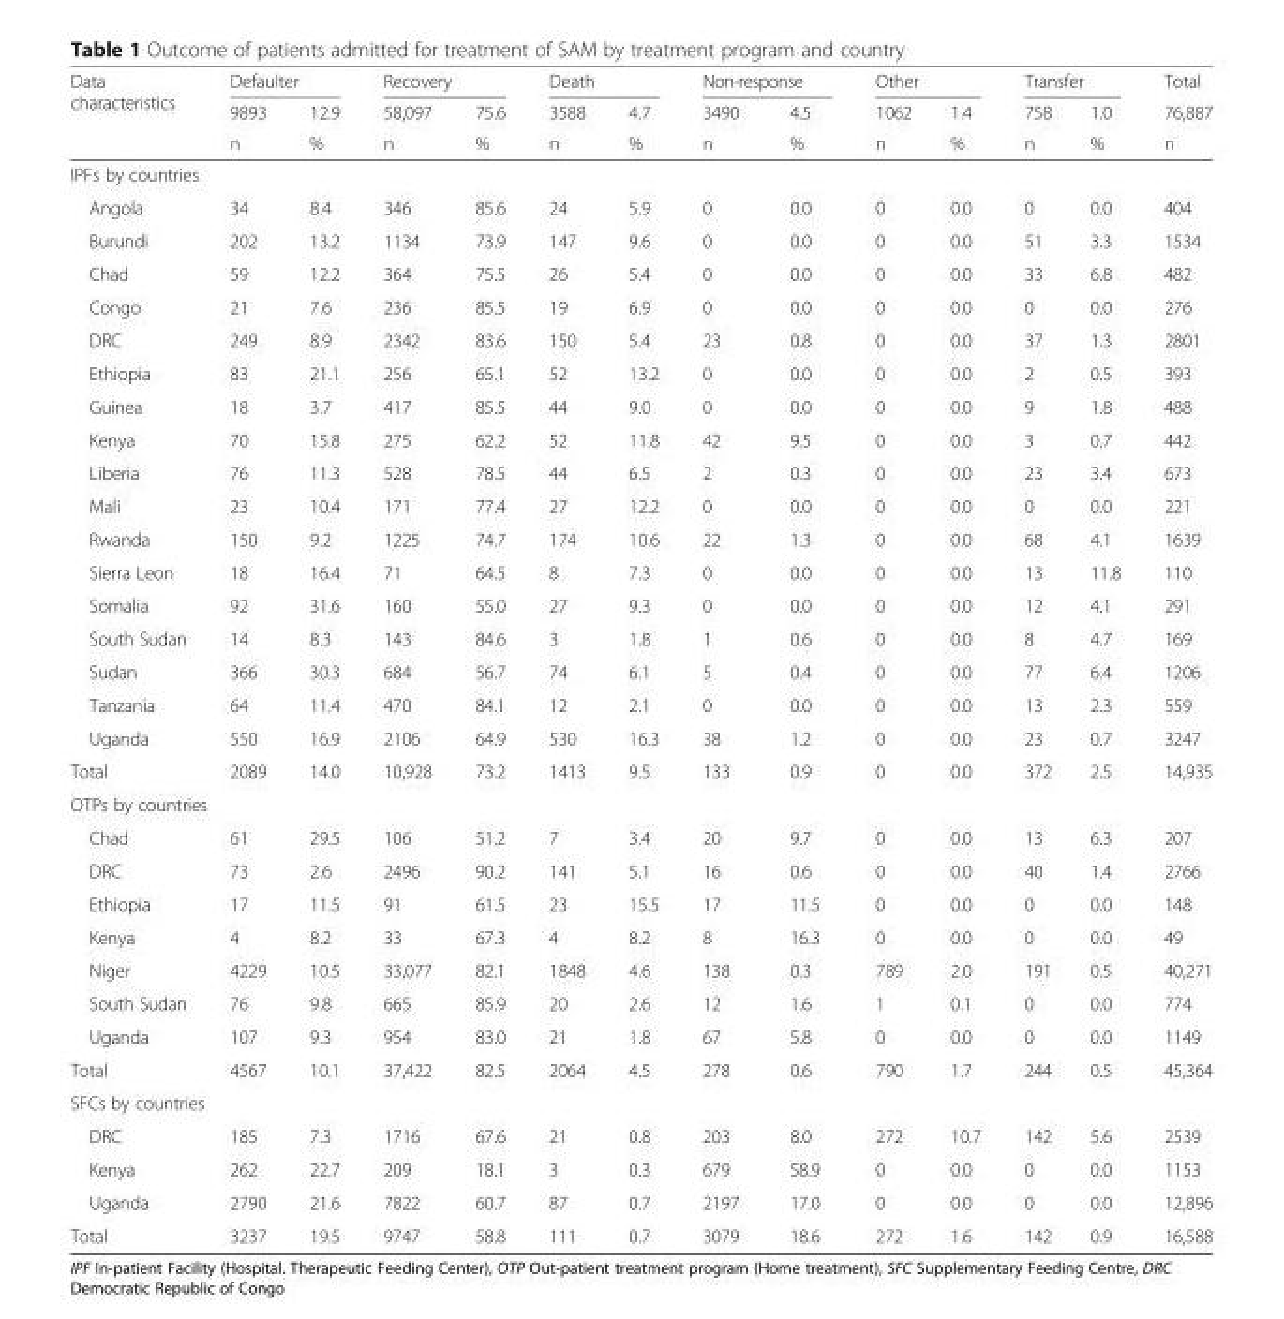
<table><thead><tr><td rowspan="3">Data characteristics</td><td colspan="2">Defaulter</td><td colspan="2">Recovery</td><td colspan="2">Death</td><td colspan="2">Non-response</td><td colspan="2">Other</td><td colspan="2">Transfer</td><td rowspan="3">Total 76,887 n</td></tr><tr><td rowspan="2">9893 n</td><td rowspan="2">12.9 %</td><td rowspan="2">58,097 n</td><td rowspan="2">75.6 %</td><td rowspan="2">3588 n</td><td rowspan="2">4.7 %</td><td rowspan="2">3490 n</td><td rowspan="2">4.5 %</td><td rowspan="2">1062 n</td><td rowspan="2">1.4 %</td><td rowspan="2">758 n</td><td rowspan="2">1.0 %</td></tr><tr></tr></thead><tbody><tr><td colspan="14">IPFs by countries</td></tr><tr><td>Angola</td><td>34</td><td>8.4</td><td>346</td><td>85.6</td><td>24</td><td>5.9</td><td>0</td><td>0.0</td><td>0</td><td>0.0</td><td>0</td><td>0.0</td><td>404</td></tr><tr><td>Burundi</td><td>202</td><td>13.2</td><td>1134</td><td>73.9</td><td>147</td><td>9.6</td><td>0</td><td>0.0</td><td>0</td><td>0.0</td><td>51</td><td>3.3</td><td>1534</td></tr><tr><td>Chad</td><td>59</td><td>12.2</td><td>364</td><td>75.5</td><td>26</td><td>5.4</td><td>0</td><td>0.0</td><td>0</td><td>0.0</td><td>33</td><td>6.8</td><td>482</td></tr><tr><td>Congo</td><td>21</td><td>7.6</td><td>236</td><td>85.5</td><td>19</td><td>6.9</td><td>0</td><td>0.0</td><td>0</td><td>0.0</td><td>0</td><td>0.0</td><td>276</td></tr><tr><td>DRC</td><td>249</td><td>8.9</td><td>2342</td><td>83.6</td><td>150</td><td>5.4</td><td>23</td><td>0.8</td><td>0</td><td>0.0</td><td>37</td><td>1.3</td><td>2801</td></tr><tr><td>Ethiopia</td><td>83</td><td>21.1</td><td>256</td><td>65.1</td><td>52</td><td>13.2</td><td>0</td><td>0.0</td><td>0</td><td>0.0</td><td>2</td><td>0.5</td><td>393</td></tr><tr><td>Guinea</td><td>18</td><td>3.7</td><td>417</td><td>85.5</td><td>44</td><td>9.0</td><td>0</td><td>0.0</td><td>0</td><td>0.0</td><td>9</td><td>1.8</td><td>488</td></tr><tr><td>Kenya</td><td>70</td><td>15.8</td><td>275</td><td>62.2</td><td>52</td><td>11.8</td><td>42</td><td>9.5</td><td>0</td><td>0.0</td><td>3</td><td>0.7</td><td>442</td></tr><tr><td>Liberia</td><td>76</td><td>11.3</td><td>528</td><td>78.5</td><td>44</td><td>6.5</td><td>2</td><td>0.3</td><td>0</td><td>0.0</td><td>23</td><td>3.4</td><td>673</td></tr><tr><td>Mali</td><td>23</td><td>10.4</td><td>171</td><td>77.4</td><td>27</td><td>12.2</td><td>0</td><td>0.0</td><td>0</td><td>0.0</td><td>0</td><td>0.0</td><td>221</td></tr><tr><td>Rwanda</td><td>150</td><td>9.2</td><td>1225</td><td>74.7</td><td>174</td><td>10.6</td><td>22</td><td>1.3</td><td>0</td><td>0.0</td><td>68</td><td>4.1</td><td>1639</td></tr><tr><td>Sierra Leon</td><td>18</td><td>16.4</td><td>71</td><td>64.5</td><td>8</td><td>7.3</td><td>0</td><td>0.0</td><td>0</td><td>0.0</td><td>13</td><td>11.8</td><td>110</td></tr><tr><td>Somalia</td><td>92</td><td>31.6</td><td>160</td><td>55.0</td><td>27</td><td>9.3</td><td>0</td><td>0.0</td><td>0</td><td>0.0</td><td>12</td><td>4.1</td><td>291</td></tr><tr><td>South Sudan</td><td>14</td><td>8.3</td><td>143</td><td>84.6</td><td>3</td><td>1.8</td><td>1</td><td>0.6</td><td>0</td><td>0.0</td><td>8</td><td>4.7</td><td>169</td></tr><tr><td>Sudan</td><td>366</td><td>30.3</td><td>684</td><td>56.7</td><td>74</td><td>6.1</td><td>5</td><td>0.4</td><td>0</td><td>0.0</td><td>77</td><td>6.4</td><td>1206</td></tr><tr><td>Tanzania</td><td>64</td><td>11.4</td><td>470</td><td>84.1</td><td>12</td><td>2.1</td><td>0</td><td>0.0</td><td>0</td><td>0.0</td><td>13</td><td>2.3</td><td>559</td></tr><tr><td>Uganda</td><td>550</td><td>16.9</td><td>2106</td><td>64.9</td><td>530</td><td>16.3</td><td>38</td><td>1.2</td><td>0</td><td>0.0</td><td>23</td><td>0.7</td><td>3247</td></tr><tr><td>Total</td><td>2089</td><td>14.0</td><td>10,928</td><td>73.2</td><td>1413</td><td>9.5</td><td>133</td><td>0.9</td><td>0</td><td>0.0</td><td>372</td><td>2.5</td><td>14,935</td></tr><tr><td colspan="14">OTPs by countries</td></tr><tr><td>Chad</td><td>61</td><td>29.5</td><td>106</td><td>51.2</td><td>7</td><td>3.4</td><td>20</td><td>9.7</td><td>0</td><td>0.0</td><td>13</td><td>6.3</td><td>207</td></tr><tr><td>DRC</td><td>73</td><td>2.6</td><td>2496</td><td>90.2</td><td>141</td><td>5.1</td><td>16</td><td>0.6</td><td>0</td><td>0.0</td><td>40</td><td>1.4</td><td>2766</td></tr><tr><td>Ethiopia</td><td>17</td><td>11.5</td><td>91</td><td>61.5</td><td>23</td><td>15.5</td><td>17</td><td>11.5</td><td>0</td><td>0.0</td><td>0</td><td>0.0</td><td>148</td></tr><tr><td>Kenya</td><td>4</td><td>8.2</td><td>33</td><td>67.3</td><td>4</td><td>8.2</td><td>8</td><td>16.3</td><td>0</td><td>0.0</td><td>0</td><td>0.0</td><td>49</td></tr><tr><td>Niger</td><td>4229</td><td>10.5</td><td>33,077</td><td>82.1</td><td>1848</td><td>4.6</td><td>138</td><td>0.3</td><td>789</td><td>2.0</td><td>191</td><td>0.5</td><td>40,271</td></tr><tr><td>South Sudan</td><td>76</td><td>9.8</td><td>665</td><td>85.9</td><td>20</td><td>2.6</td><td>12</td><td>1.6</td><td>1</td><td>0.1</td><td>0</td><td>0.0</td><td>774</td></tr><tr><td>Uganda</td><td>107</td><td>9.3</td><td>954</td><td>83.0</td><td>21</td><td>1.8</td><td>67</td><td>5.8</td><td>0</td><td>0.0</td><td>0</td><td>0.0</td><td>1149</td></tr><tr><td>Total</td><td>4567</td><td>10.1</td><td>37,422</td><td>82.5</td><td>2064</td><td>4.5</td><td>278</td><td>0.6</td><td>790</td><td>1.7</td><td>244</td><td>0.5</td><td>45,364</td></tr><tr><td colspan="14">SFCs by countries</td></tr><tr><td>DRC</td><td>185</td><td>7.3</td><td>1716</td><td>67.6</td><td>21</td><td>0.8</td><td>203</td><td>8.0</td><td>272</td><td>10.7</td><td>142</td><td>5.6</td><td>2539</td></tr><tr><td>Kenya</td><td>262</td><td>22.7</td><td>209</td><td>18.1</td><td>3</td><td>0.3</td><td>679</td><td>58.9</td><td>0</td><td>0.0</td><td>0</td><td>0.0</td><td>1153</td></tr><tr><td>Uganda</td><td>2790</td><td>21.6</td><td>7822</td><td>60.7</td><td>87</td><td>0.7</td><td>2197</td><td>17.0</td><td>0</td><td>0.0</td><td>0</td><td>0.0</td><td>12,896</td></tr><tr><td>Total</td><td>3237</td><td>19.5</td><td>9747</td><td>58.8</td><td>111</td><td>0.7</td><td>3079</td><td>18.6</td><td>272</td><td>1.6</td><td>142</td><td>0.9</td><td>16,588</td></tr></tbody></table>